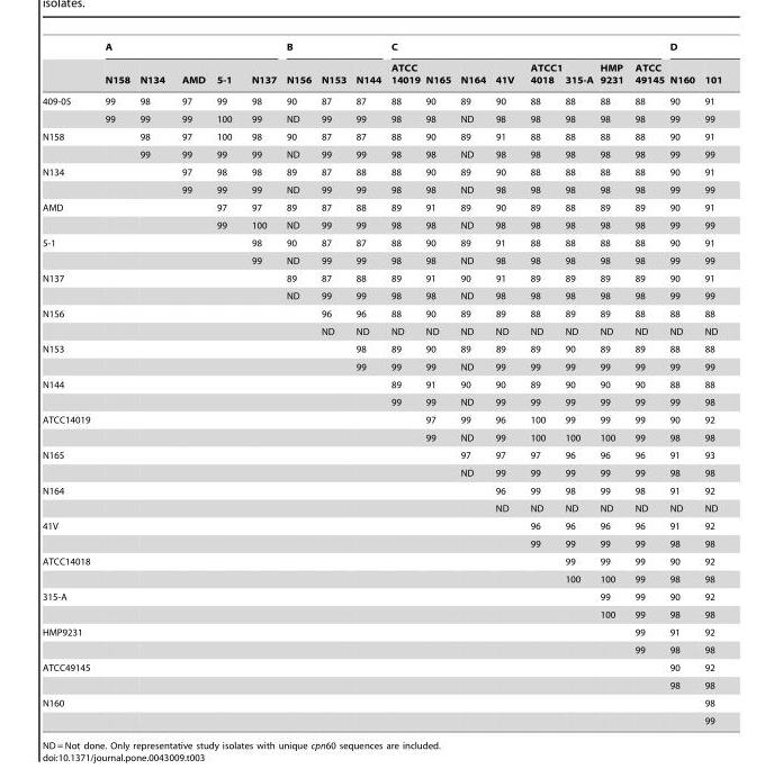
<table><thead><tr><td rowspan="2"></td><td colspan="5">A</td><td colspan="3">B</td><td colspan="8">C</td><td colspan="2">D</td></tr><tr><td>N158</td><td>N134</td><td>AMD</td><td>5-1</td><td>N137</td><td>N156</td><td>N153</td><td>N144</td><td>ATCC 14019</td><td>N165</td><td>N164</td><td>41V</td><td>ATCC1 4018</td><td>315-A</td><td>HMP 9231</td><td>ATCC 49145</td><td>N160</td><td>101</td></tr></thead><tbody><tr><td rowspan="2">409-05</td><td>99</td><td>98</td><td>97</td><td>99</td><td>98</td><td>90</td><td>87</td><td>87</td><td>88</td><td>90</td><td>89</td><td>90</td><td>88</td><td>88</td><td>88</td><td>88</td><td>90</td><td>91</td></tr><tr><td>99</td><td>99</td><td>99</td><td>100</td><td>99</td><td>ND</td><td>99</td><td>99</td><td>98</td><td>98</td><td>ND</td><td>98</td><td>98</td><td>98</td><td>98</td><td>98</td><td>99</td><td>99</td></tr><tr><td rowspan="2">N158</td><td></td><td>98</td><td>97</td><td>100</td><td>98</td><td>90</td><td>87</td><td>87</td><td>88</td><td>90</td><td>89</td><td>91</td><td>88</td><td>88</td><td>88</td><td>88</td><td>90</td><td>91</td></tr><tr><td></td><td>99</td><td>99</td><td>99</td><td>99</td><td>ND</td><td>99</td><td>99</td><td>98</td><td>98</td><td>ND</td><td>98</td><td>98</td><td>98</td><td>98</td><td>98</td><td>99</td><td>99</td></tr><tr><td rowspan="2">N134</td><td></td><td></td><td>97</td><td>98</td><td>98</td><td>89</td><td>87</td><td>88</td><td>88</td><td>90</td><td>89</td><td>90</td><td>88</td><td>88</td><td>88</td><td>88</td><td>90</td><td>91</td></tr><tr><td></td><td></td><td>99</td><td>99</td><td>99</td><td>ND</td><td>99</td><td>99</td><td>98</td><td>98</td><td>ND</td><td>98</td><td>98</td><td>98</td><td>98</td><td>98</td><td>99</td><td>99</td></tr><tr><td rowspan="2">AMD</td><td></td><td></td><td></td><td>97</td><td>97</td><td>89</td><td>87</td><td>88</td><td>89</td><td>91</td><td>89</td><td>90</td><td>89</td><td>88</td><td>89</td><td>89</td><td>90</td><td>91</td></tr><tr><td></td><td></td><td></td><td>99</td><td>100</td><td>ND</td><td>99</td><td>99</td><td>98</td><td>98</td><td>ND</td><td>98</td><td>98</td><td>98</td><td>98</td><td>98</td><td>99</td><td>99</td></tr><tr><td rowspan="2">5-1</td><td></td><td></td><td></td><td></td><td>98</td><td>90</td><td>87</td><td>87</td><td>88</td><td>90</td><td>89</td><td>91</td><td>88</td><td>88</td><td>88</td><td>88</td><td>90</td><td>91</td></tr><tr><td></td><td></td><td></td><td></td><td>99</td><td>ND</td><td>99</td><td>99</td><td>98</td><td>98</td><td>ND</td><td>98</td><td>98</td><td>98</td><td>98</td><td>98</td><td>99</td><td>99</td></tr><tr><td rowspan="2">N137</td><td></td><td></td><td></td><td></td><td></td><td>89</td><td>87</td><td>88</td><td>89</td><td>91</td><td>90</td><td>91</td><td>89</td><td>89</td><td>89</td><td>89</td><td>90</td><td>91</td></tr><tr><td></td><td></td><td></td><td></td><td></td><td>ND</td><td>99</td><td>99</td><td>98</td><td>98</td><td>ND</td><td>98</td><td>98</td><td>98</td><td>98</td><td>98</td><td>99</td><td>99</td></tr><tr><td rowspan="2">N156</td><td></td><td></td><td></td><td></td><td></td><td></td><td>96</td><td>96</td><td>88</td><td>90</td><td>89</td><td>89</td><td>88</td><td>89</td><td>89</td><td>88</td><td>88</td><td>88</td></tr><tr><td></td><td></td><td></td><td></td><td></td><td></td><td>ND</td><td>ND</td><td>ND</td><td>ND</td><td>ND</td><td>ND</td><td>ND</td><td>ND</td><td>ND</td><td>ND</td><td>ND</td><td>ND</td></tr><tr><td rowspan="2">N153</td><td></td><td></td><td></td><td></td><td></td><td></td><td></td><td>98</td><td>89</td><td>90</td><td>89</td><td>89</td><td>89</td><td>90</td><td>89</td><td>89</td><td>88</td><td>88</td></tr><tr><td></td><td></td><td></td><td></td><td></td><td></td><td></td><td>99</td><td>99</td><td>99</td><td>ND</td><td>99</td><td>99</td><td>99</td><td>99</td><td>99</td><td>99</td><td>99</td></tr><tr><td rowspan="2">N144</td><td></td><td></td><td></td><td></td><td></td><td></td><td></td><td></td><td>89</td><td>91</td><td>90</td><td>90</td><td>89</td><td>90</td><td>90</td><td>90</td><td>88</td><td>88</td></tr><tr><td></td><td></td><td></td><td></td><td></td><td></td><td></td><td></td><td>99</td><td>99</td><td>ND</td><td>99</td><td>99</td><td>99</td><td>99</td><td>99</td><td>99</td><td>98</td></tr><tr><td rowspan="2">ATCC14019</td><td></td><td></td><td></td><td></td><td></td><td></td><td></td><td></td><td></td><td>97</td><td>99</td><td>96</td><td>100</td><td>99</td><td>99</td><td>99</td><td>90</td><td>92</td></tr><tr><td></td><td></td><td></td><td></td><td></td><td></td><td></td><td></td><td></td><td>99</td><td>ND</td><td>99</td><td>100</td><td>100</td><td>100</td><td>99</td><td>98</td><td>98</td></tr><tr><td rowspan="2">N165</td><td></td><td></td><td></td><td></td><td></td><td></td><td></td><td></td><td></td><td></td><td>97</td><td>97</td><td>97</td><td>96</td><td>96</td><td>96</td><td>91</td><td>93</td></tr><tr><td></td><td></td><td></td><td></td><td></td><td></td><td></td><td></td><td></td><td></td><td>ND</td><td>99</td><td>99</td><td>99</td><td>99</td><td>99</td><td>98</td><td>98</td></tr><tr><td rowspan="2">N164</td><td></td><td></td><td></td><td></td><td></td><td></td><td></td><td></td><td></td><td></td><td></td><td>96</td><td>99</td><td>98</td><td>99</td><td>98</td><td>91</td><td>92</td></tr><tr><td></td><td></td><td></td><td></td><td></td><td></td><td></td><td></td><td></td><td></td><td></td><td>ND</td><td>ND</td><td>ND</td><td>ND</td><td>ND</td><td>ND</td><td>ND</td></tr><tr><td rowspan="2">41V</td><td></td><td></td><td></td><td></td><td></td><td></td><td></td><td></td><td></td><td></td><td></td><td></td><td>96</td><td>96</td><td>96</td><td>96</td><td>91</td><td>92</td></tr><tr><td></td><td></td><td></td><td></td><td></td><td></td><td></td><td></td><td></td><td></td><td></td><td></td><td>99</td><td>99</td><td>99</td><td>99</td><td>98</td><td>98</td></tr><tr><td rowspan="2">ATCC14018</td><td></td><td></td><td></td><td></td><td></td><td></td><td></td><td></td><td></td><td></td><td></td><td></td><td></td><td>99</td><td>99</td><td>99</td><td>90</td><td>92</td></tr><tr><td></td><td></td><td></td><td></td><td></td><td></td><td></td><td></td><td></td><td></td><td></td><td></td><td></td><td>100</td><td>100</td><td>99</td><td>98</td><td>98</td></tr><tr><td rowspan="2">315-A</td><td></td><td></td><td></td><td></td><td></td><td></td><td></td><td></td><td></td><td></td><td></td><td></td><td></td><td></td><td>99</td><td>99</td><td>90</td><td>92</td></tr><tr><td></td><td></td><td></td><td></td><td></td><td></td><td></td><td></td><td></td><td></td><td></td><td></td><td></td><td></td><td>100</td><td>99</td><td>98</td><td>98</td></tr><tr><td rowspan="2">HMP9231</td><td></td><td></td><td></td><td></td><td></td><td></td><td></td><td></td><td></td><td></td><td></td><td></td><td></td><td></td><td></td><td>99</td><td>91</td><td>92</td></tr><tr><td></td><td></td><td></td><td></td><td></td><td></td><td></td><td></td><td></td><td></td><td></td><td></td><td></td><td></td><td></td><td>99</td><td>98</td><td>98</td></tr><tr><td rowspan="2">ATCC49145</td><td></td><td></td><td></td><td></td><td></td><td></td><td></td><td></td><td></td><td></td><td></td><td></td><td></td><td></td><td></td><td></td><td>90</td><td>92</td></tr><tr><td></td><td></td><td></td><td></td><td></td><td></td><td></td><td></td><td></td><td></td><td></td><td></td><td></td><td></td><td></td><td></td><td>98</td><td>98</td></tr><tr><td rowspan="2">N160</td><td></td><td></td><td></td><td></td><td></td><td></td><td></td><td></td><td></td><td></td><td></td><td></td><td></td><td></td><td></td><td></td><td></td><td>98</td></tr><tr><td></td><td></td><td></td><td></td><td></td><td></td><td></td><td></td><td></td><td></td><td></td><td></td><td></td><td></td><td></td><td></td><td></td><td>99</td></tr></tbody></table>